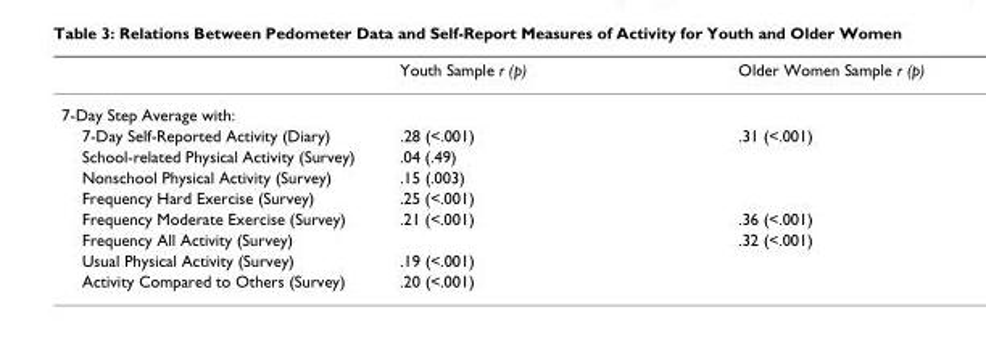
<table><thead><tr><td></td><td>Youth Sample r (p)</td><td>Older Women Sample r (p)</td></tr></thead><tbody><tr><td colspan="3">7-Day Step Average with:</td></tr><tr><td>7-Day Self-Reported Activity (Diary)</td><td>.28 (&lt;.001)</td><td>.31 (&lt;.001)</td></tr><tr><td>School-related Physical Activity (Survey)</td><td>.04 (.49)</td><td></td></tr><tr><td>Nonschool Physical Activity (Survey)</td><td>.15 (.003)</td><td></td></tr><tr><td>Frequency Hard Exercise (Survey)</td><td>.25 (&lt;.001)</td><td></td></tr><tr><td>Frequency Moderate Exercise (Survey)</td><td>.21 (&lt;.001)</td><td>.36 (&lt;.001)</td></tr><tr><td>Frequency All Activity (Survey)</td><td></td><td>.32 (&lt;.001)</td></tr><tr><td>Usual Physical Activity (Survey)</td><td>.19 (&lt;.001)</td><td></td></tr><tr><td>Activity Compared to Others (Survey)</td><td>.20 (&lt;.001)</td><td></td></tr></tbody></table>